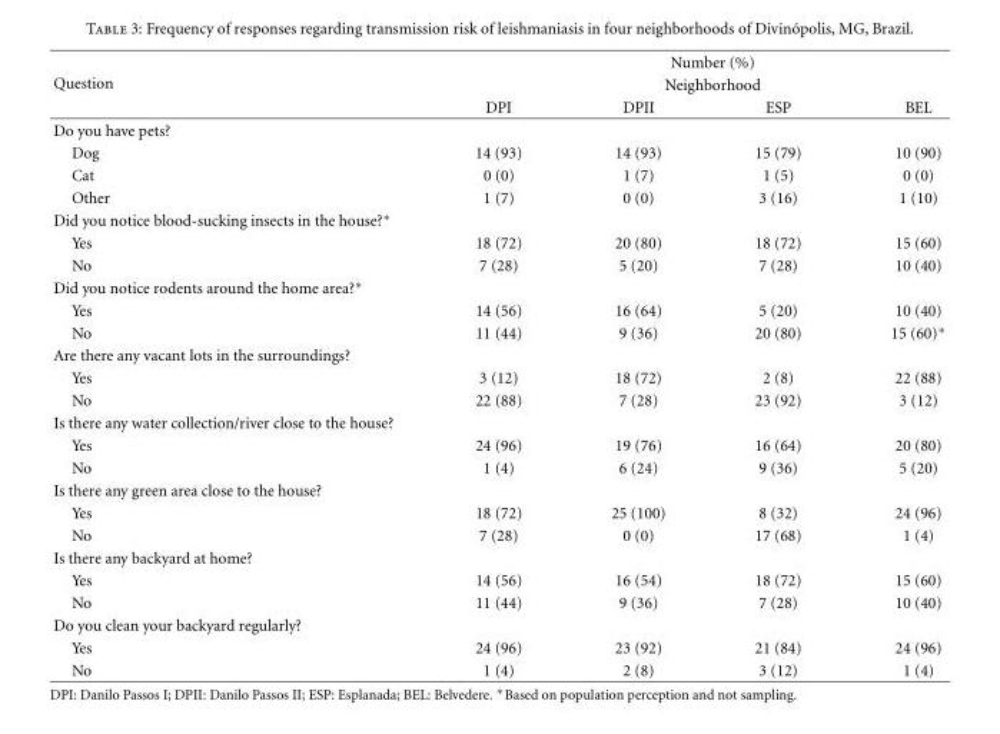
<table><thead><tr><td rowspan="3">Question</td><td rowspan="2" colspan="4">Number (%) Neighborhood</td></tr><tr></tr><tr><td>DPI</td><td>DPII</td><td>ESP</td><td>BEL</td></tr></thead><tbody><tr><td colspan="5">Do you have pets?</td></tr><tr><td>Dog</td><td>14 (93)</td><td>14 (93)</td><td>15 (79)</td><td>10 (90)</td></tr><tr><td>Cat</td><td>0 (0)</td><td>1 (7)</td><td>1 (5)</td><td>0 (0)</td></tr><tr><td>Other</td><td>1 (7)</td><td>0 (0)</td><td>3 (16)</td><td>1 (10)</td></tr><tr><td colspan="5">Did you notice blood-sucking insects in the house?∗</td></tr><tr><td>Yes</td><td>18 (72)</td><td>20 (80)</td><td>18 (72)</td><td>15 (60)</td></tr><tr><td>No</td><td>7 (28)</td><td>5 (20)</td><td>7 (28)</td><td>10 (40)</td></tr><tr><td colspan="5">Did you notice rodents around the home area?∗</td></tr><tr><td>Yes</td><td>14 (56)</td><td>16 (64)</td><td>5 (20)</td><td>10 (40)</td></tr><tr><td>No</td><td>11 (44)</td><td>9 (36)</td><td>20 (80)</td><td>15 (60)∗</td></tr><tr><td colspan="5">Are there any vacant lots in the surroundings?</td></tr><tr><td>Yes</td><td>3 (12)</td><td>18 (72)</td><td>2 (8)</td><td>22 (88)</td></tr><tr><td>No</td><td>22 (88)</td><td>7 (28)</td><td>23 (92)</td><td>3 (12)</td></tr><tr><td colspan="5">Is there any water collection/river close to the house?</td></tr><tr><td>Yes</td><td>24 (96)</td><td>19 (76)</td><td>16 (64)</td><td>20 (80)</td></tr><tr><td>No</td><td>1 (4)</td><td>6 (24)</td><td>9 (36)</td><td>5 (20)</td></tr><tr><td colspan="5">Is there any green area close to the house?</td></tr><tr><td>Yes</td><td>18 (72)</td><td>25 (100)</td><td>8 (32)</td><td>24 (96)</td></tr><tr><td>No</td><td>7 (28)</td><td>0 (0)</td><td>17 (68)</td><td>1 (4)</td></tr><tr><td colspan="5">Is there any backyard at home?</td></tr><tr><td>Yes</td><td>14 (56)</td><td>16 (54)</td><td>18 (72)</td><td>15 (60)</td></tr><tr><td>No</td><td>11 (44)</td><td>9 (36)</td><td>7 (28)</td><td>10 (40)</td></tr><tr><td colspan="5">Do you clean your backyard regularly?</td></tr><tr><td>Yes</td><td>24 (96)</td><td>23 (92)</td><td>21 (84)</td><td>24 (96)</td></tr><tr><td>No</td><td>1 (4)</td><td>2 (8)</td><td>3 (12)</td><td>1 (4)</td></tr></tbody></table>